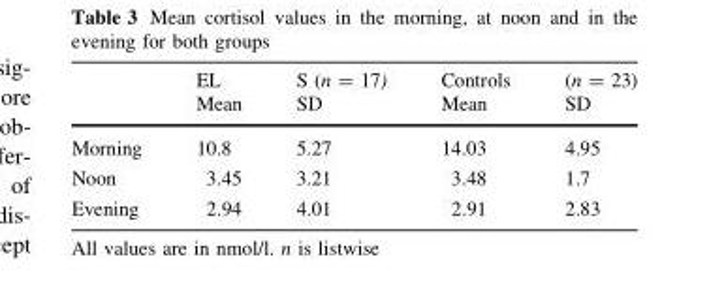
<table><thead><tr><td rowspan="2"></td><td rowspan="2">EL Mean</td><td rowspan="2">S (n = 17) SD</td><td rowspan="2">Controls Mean</td><td rowspan="2">(n = 23) SD</td></tr><tr></tr></thead><tbody><tr><td>Morning</td><td>10.8</td><td>5.27</td><td>14.03</td><td>4.95</td></tr><tr><td>Noon</td><td>3.45</td><td>3.21</td><td>3.48</td><td>1.7</td></tr><tr><td>Evening</td><td>2.94</td><td>4.01</td><td>2.91</td><td>2.83</td></tr></tbody></table>